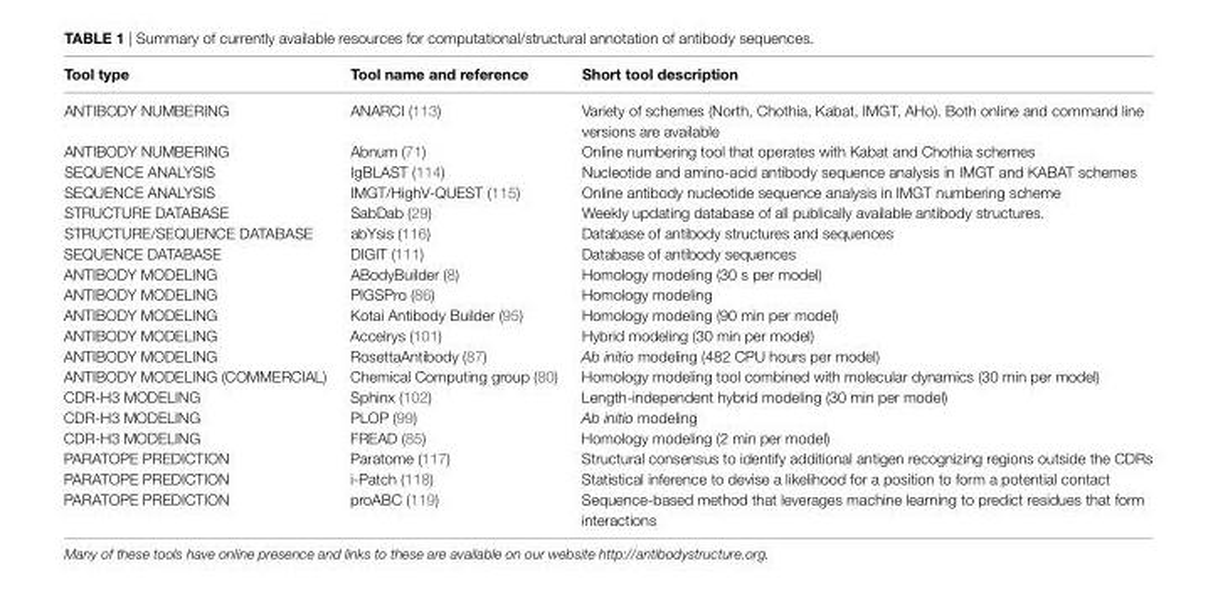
<table><thead><tr><td>Tool type</td><td>Tool name and reference</td><td>Short tool description</td></tr></thead><tbody><tr><td>ANTIBODY NUMBERING</td><td>ANARCI (113)</td><td>Variety of schemes (North, Chothia, Kabat, IMGT, AHo). Both online and command line versions are available</td></tr><tr><td>ANTIBODY NUMBERING</td><td>Abnum (71)</td><td>Online numbering tool that operates with Kabat and Chothia schemes</td></tr><tr><td>SEQUENCE ANALYSIS</td><td>IgBLAST (114)</td><td>Nucleotide and amino-acid antibody sequence analysis in IMGT and KABAT schemes</td></tr><tr><td>SEQUENCE ANALYSIS</td><td>IMGT/HighV-QUEST (115)</td><td>Online antibody nucleotide sequence analysis in IMGT numbering scheme</td></tr><tr><td>STRUCTURE DATABASE</td><td>SabDab (29)</td><td>Weekly updating database of all publically available antibody structures.</td></tr><tr><td>STRUCTURE/SEQUENCE DATABASE</td><td>abYsis (116)</td><td>Database of antibody structures and sequences</td></tr><tr><td>SEQUENCE DATABASE</td><td>DIGIT (111)</td><td>Database of antibody sequences</td></tr><tr><td>ANTIBODY MODELING</td><td>ABodyBuilder (8)</td><td>Homology modeling (30 s per model)</td></tr><tr><td>ANTIBODY MODELING</td><td>PIGSPro (86)</td><td>Homology modeling</td></tr><tr><td>ANTIBODY MODELING</td><td>Kotai Antibody Builder (95)</td><td>Homology modeling (90 min per model)</td></tr><tr><td>ANTIBODY MODELING</td><td>Accelrys (101)</td><td>Hybrid modeling (30 min per model)</td></tr><tr><td>ANTIBODY MODELING</td><td>RosettaAntibody (87)</td><td>Ab initio modeling (482 CPU hours per model)</td></tr><tr><td>ANTIBODY MODELING (COMMERCIAL)</td><td>Chemical Computing group (80)</td><td>Homology modeling tool combined with molecular dynamics (30 min per model)</td></tr><tr><td>CDR-H3 MODELING</td><td>Sphinx (102)</td><td>Length-independent hybrid modeling (30 min per model)</td></tr><tr><td>CDR-H3 MODELING</td><td>PLOP (99)</td><td>Ab initio modeling</td></tr><tr><td>CDR-H3 MODELING</td><td>FREAD (85)</td><td>Homology modeling (2 min per model)</td></tr><tr><td>PARATOPE PREDICTION</td><td>Paratome (117)</td><td>Structural consensus to identify additional antigen recognizing regions outside the CDRs</td></tr><tr><td>PARATOPE PREDICTION</td><td>i-Patch (118)</td><td>Statistical inference to devise a likelihood for a position to form a potential contact</td></tr><tr><td>PARATOPE PREDICTION</td><td>proABC (119)</td><td>Sequence-based method that leverages machine learning to predict residues that form interactions</td></tr></tbody></table>